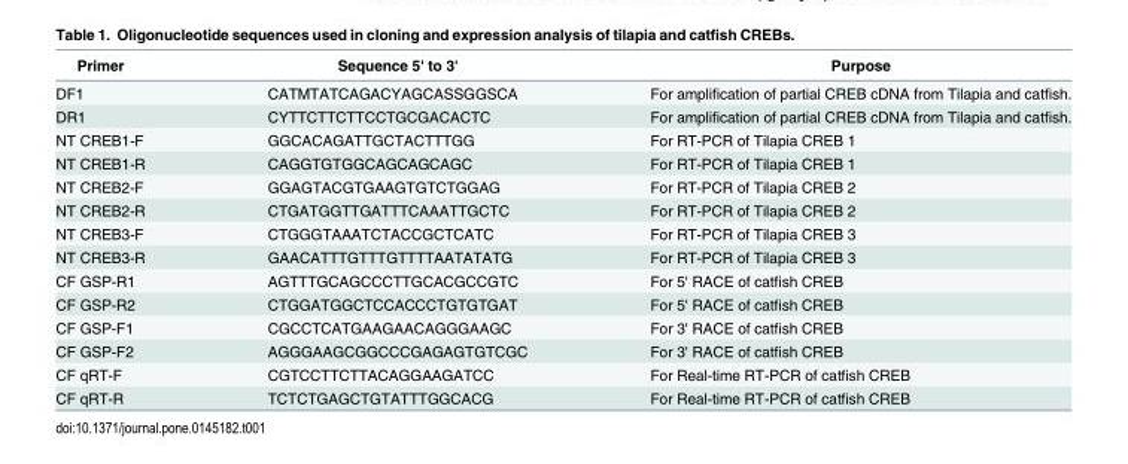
<table><thead><tr><td>Primer</td><td>Sequence 5&#x27; to 3&#x27;</td><td>Purpose</td></tr></thead><tbody><tr><td>DF1</td><td>CATMTATCAGACYAGCASSGGSCA</td><td>For amplification of partial CREB cDNA from Tilapia and catfish.</td></tr><tr><td>DR1</td><td>CYTTCTTCTTCCTGCGACACTC</td><td>For amplification of partial CREB cDNA from Tilapia and catfish.</td></tr><tr><td>NT CREB1-F</td><td>GGCACAGATTGCTACTTTGG</td><td>For RT-PCR of Tilapia CREB 1</td></tr><tr><td>NT CREB1-R</td><td>CAGGTGTGGCAGCAGCAGC</td><td>For RT-PCR of Tilapia CREB 1</td></tr><tr><td>NT CREB2-F</td><td>GGAGTACGTGAAGTGTCTGGAG</td><td>For RT-PCR of Tilapia CREB 2</td></tr><tr><td>NT CREB2-R</td><td>CTGATGGTTGATTTCAAATTGCTC</td><td>For RT-PCR of Tilapia CREB 2</td></tr><tr><td>NT CREB3-F</td><td>CTGGGTAAATCTACCGCTCATC</td><td>For RT-PCR of Tilapia CREB 3</td></tr><tr><td>NT CREB3-R</td><td>GAACATTTGTTTGTTTTAATATATG</td><td>For RT-PCR of Tilapia CREB 3</td></tr><tr><td>CF GSP-R1</td><td>AGTTTGCAGCCCTTGCACGCCGTC</td><td>For 5&#x27; RACE of catfish CREB</td></tr><tr><td>CF GSP-R2</td><td>CTGGATGGCTCCACCCTGTGTGAT</td><td>For 5&#x27; RACE of catfish CREB</td></tr><tr><td>CF GSP-F1</td><td>CGCCTCATGAAGAACAGGGAAGC</td><td>For 3&#x27; RACE of catfish CREB</td></tr><tr><td>CF GSP-F2</td><td>AGGGAAGCGGCCCGAGAGTGTCGC</td><td>For 3&#x27; RACE of catfish CREB</td></tr><tr><td>CF qRT-F</td><td>CGTCCTTCTTACAGGAAGATCC</td><td>For Real-time RT-PCR of catfish CREB</td></tr><tr><td>CF qRT-R</td><td>TCTCTGAGCTGTATTTGGCACG</td><td>For Real-time RT-PCR of catfish CREB</td></tr></tbody></table>